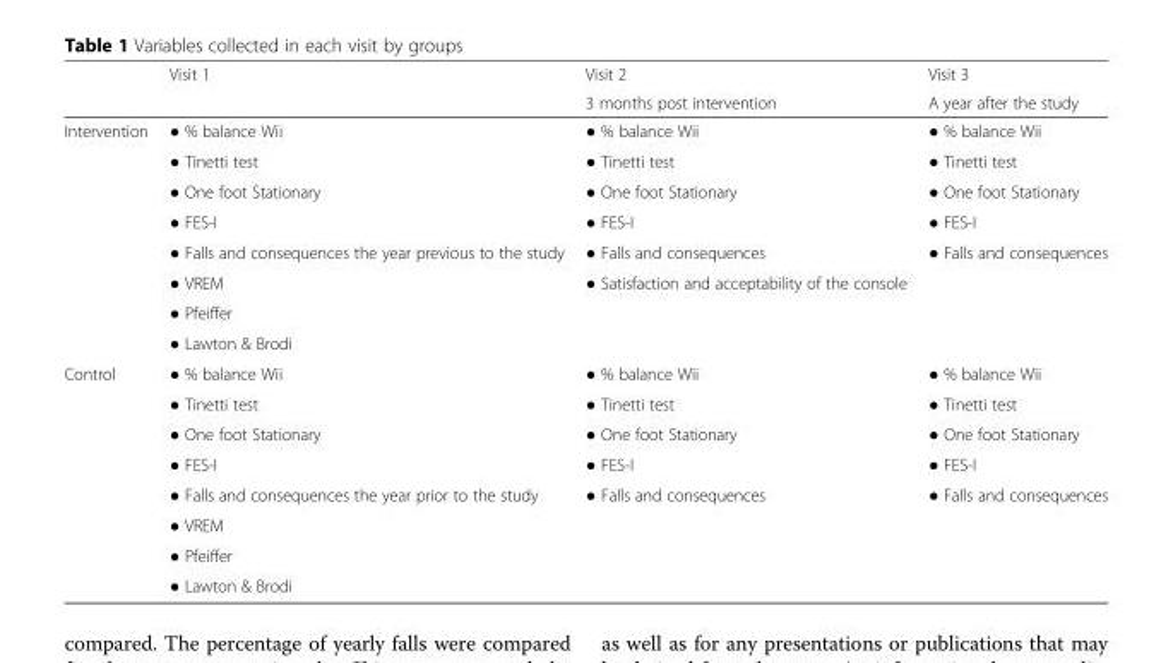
<table><thead><tr><td rowspan="2"></td><td rowspan="2">Visit 1</td><td rowspan="2">Visit 2 3 months post intervention</td><td rowspan="2">Visit 3 A year after the study</td></tr><tr></tr></thead><tbody><tr><td rowspan="8">Intervention</td><td>● % balance Wii</td><td>● % balance Wii</td><td>● % balance Wii</td></tr><tr><td>● Tinetti test</td><td>● Tinetti test</td><td>● Tinetti test</td></tr><tr><td>● One foot Stationary</td><td>● One foot Stationary</td><td>● One foot Stationary</td></tr><tr><td>● FES-I</td><td>● FES-I</td><td>● FES-I</td></tr><tr><td>● Falls and consequences the year previous to the study</td><td>● Falls and consequences</td><td>● Falls and consequences</td></tr><tr><td>● VREM</td><td>● Satisfaction and acceptability of the console</td><td></td></tr><tr><td>● Pfeiffer</td><td></td><td></td></tr><tr><td>● Lawton &amp; Brodi</td><td></td><td></td></tr><tr><td rowspan="8">Control</td><td>● % balance Wii</td><td>● % balance Wii</td><td>● % balance Wii</td></tr><tr><td>● Tinetti test</td><td>● Tinetti test</td><td>● Tinetti test</td></tr><tr><td>● One foot Stationary</td><td>● One foot Stationary</td><td>● One foot Stationary</td></tr><tr><td>● FES-I</td><td>● FES-I</td><td>● FES-I</td></tr><tr><td>● Falls and consequences the year prior to the study</td><td>● Falls and consequences</td><td>● Falls and consequences</td></tr><tr><td>● VREM</td><td></td><td></td></tr><tr><td>● Pfeiffer</td><td></td><td></td></tr><tr><td>● Lawton &amp; Brodi</td><td></td><td></td></tr></tbody></table>